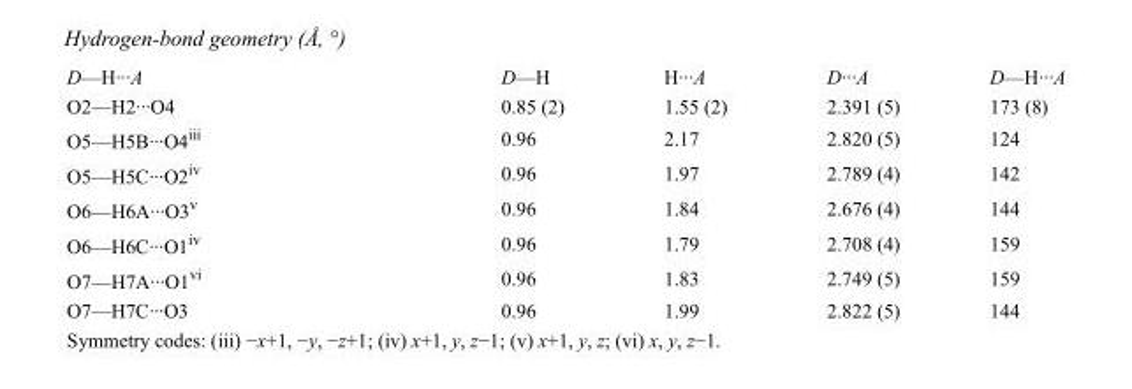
<table><tbody><tr><td>D—H···A</td><td>D—H</td><td>H···A</td><td>D···A</td><td>D—H···A</td></tr><tr><td>O2—H2···O4</td><td>0.85 (2)</td><td>1.55 (2)</td><td>2.391 (5)</td><td>173 (8)</td></tr><tr><td>O5—H5B···O4<sup>iii</sup></td><td>0.96</td><td>2.17</td><td>2.820 (5)</td><td>124</td></tr><tr><td>O5—H5C···O2<sup>iv</sup></td><td>0.96</td><td>1.97</td><td>2.789 (4)</td><td>142</td></tr><tr><td>O6—H6A···O3<sup>v</sup></td><td>0.96</td><td>1.84</td><td>2.676 (4)</td><td>144</td></tr><tr><td>O6—H6C···O1<sup>iv</sup></td><td>0.96</td><td>1.79</td><td>2.708 (4)</td><td>159</td></tr><tr><td>O7—H7A···O1<sup>vi</sup></td><td>0.96</td><td>1.83</td><td>2.749 (5)</td><td>159</td></tr><tr><td>O7—H7C···O3</td><td>0.96</td><td>1.99</td><td>2.822 (5)</td><td>144</td></tr></tbody></table>